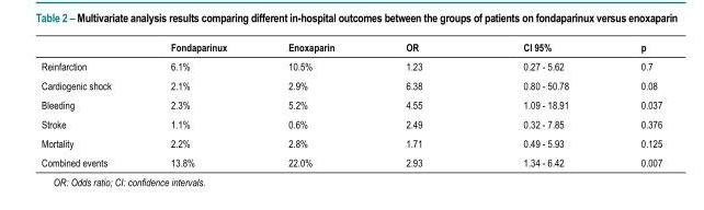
<table><thead><tr><td></td><td>Fondaparinux</td><td>Enoxaparin</td><td>OR</td><td>CI 95%</td><td>p</td></tr></thead><tbody><tr><td>Reinfarction</td><td>6.1%</td><td>10.5%</td><td>1.23</td><td>0.27 - 5.62</td><td>0.7</td></tr><tr><td>Cardiogenic shock</td><td>2.1%</td><td>2.9%</td><td>6.38</td><td>0.80 - 50.78</td><td>0.08</td></tr><tr><td>Bleeding</td><td>2.3%</td><td>5.2%</td><td>4.55</td><td>1.09 - 18.91</td><td>0.037</td></tr><tr><td>Stroke</td><td>1.1%</td><td>0.6%</td><td>2.49</td><td>0.32 - 7.85</td><td>0.376</td></tr><tr><td>Mortality</td><td>2.2%</td><td>2.8%</td><td>1.71</td><td>0.49 - 5.93</td><td>0.125</td></tr><tr><td>Combined events</td><td>13.8%</td><td>22.0%</td><td>2.93</td><td>1.34 - 6.42</td><td>0.007</td></tr></tbody></table>